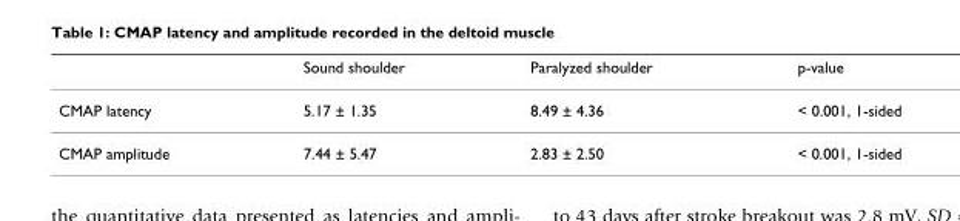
<table><thead><tr><td></td><td>Sound shoulder</td><td>Paralyzed shoulder</td><td>p-value</td></tr></thead><tbody><tr><td>CMAP latency</td><td>5.17 ± 1.35</td><td>8.49 ± 4.36</td><td>&lt; 0.001, 1-sided</td></tr><tr><td>CMAP amplitude</td><td>7.44 ± 5.47</td><td>2.83 ± 2.50</td><td>&lt; 0.001, 1-sided</td></tr></tbody></table>